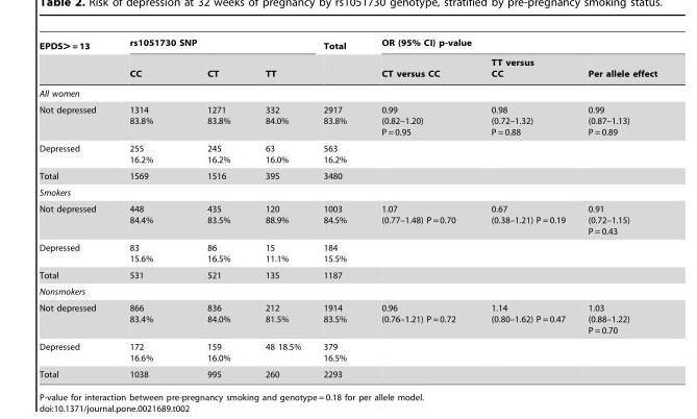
<table><thead><tr><td rowspan="2">EPDS&gt; = 13</td><td colspan="3">rs1051730 SNP</td><td rowspan="2">Total</td><td colspan="3">OR (95% CI) p-value</td></tr><tr><td>CC</td><td>CT</td><td>TT</td><td>CT versus CC</td><td>TT versus CC</td><td>Per allele effect</td></tr></thead><tbody><tr><td colspan="8">All women</td></tr><tr><td>Not depressed</td><td>1314 83.8%</td><td>1271 83.8%</td><td>332 84.0%</td><td>2917 83.8%</td><td>0.99 (0.82–1.20) P = 0.95</td><td>0.98 (0.72–1.32) P = 0.88</td><td>0.99 (0.87–1.13) P = 0.89</td></tr><tr><td>Depressed</td><td>255 16.2%</td><td>245 16.2%</td><td>63 16.0%</td><td>563 16.2%</td><td></td><td></td><td></td></tr><tr><td>Total</td><td>1569</td><td>1516</td><td>395</td><td>3480</td><td></td><td></td><td></td></tr><tr><td colspan="8">Smokers</td></tr><tr><td>Not depressed</td><td>448 84.4%</td><td>435 83.5%</td><td>120 88.9%</td><td>1003 84.5%</td><td>1.07 (0.77–1.48) P = 0.70</td><td>0.67 (0.38–1.21) P = 0.19</td><td>0.91 (0.72–1.15) P = 0.43</td></tr><tr><td>Depressed</td><td>83 15.6%</td><td>86 16.5%</td><td>15 11.1%</td><td>184 15.5%</td><td></td><td></td><td></td></tr><tr><td>Total</td><td>531</td><td>521</td><td>135</td><td>1187</td><td></td><td></td><td></td></tr><tr><td colspan="8">Nonsmokers</td></tr><tr><td>Not depressed</td><td>866 83.4%</td><td>836 84.0%</td><td>212 81.5%</td><td>1914 83.5%</td><td>0.96 (0.76–1.21) P = 0.72</td><td>1.14 (0.80–1.62) P = 0.47</td><td>1.03 (0.88–1.22) P = 0.70</td></tr><tr><td>Depressed</td><td>172 16.6%</td><td>159 16.0%</td><td>48 18.5%</td><td>379 16.5%</td><td></td><td></td><td></td></tr><tr><td>Total</td><td>1038</td><td>995</td><td>260</td><td>2293</td><td></td><td></td><td></td></tr></tbody></table>